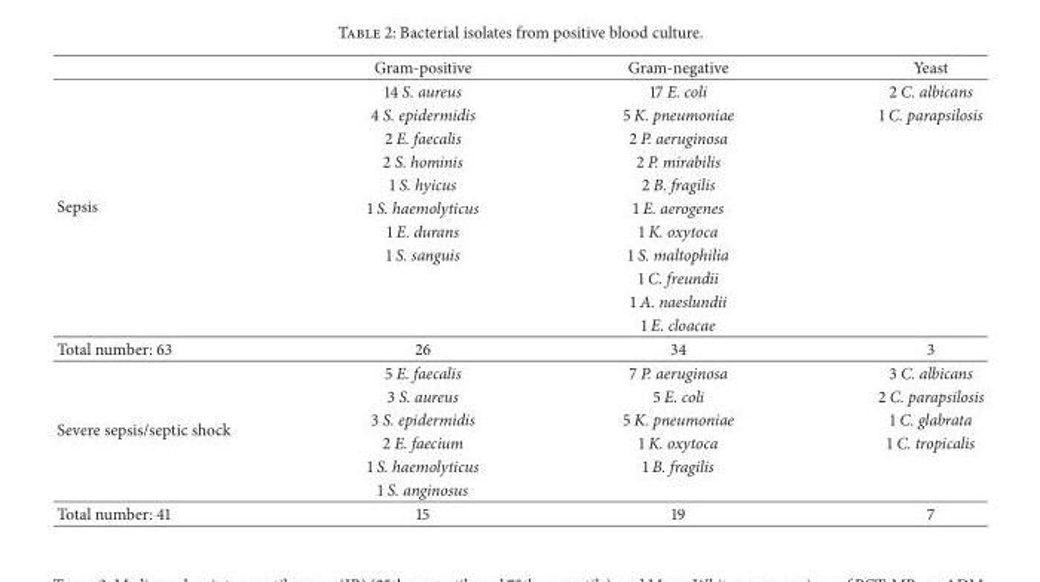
<table><thead><tr><td></td><td>Gram-positive</td><td>Gram-negative</td><td>Yeast</td></tr></thead><tbody><tr><td rowspan="11">Sepsis</td><td>14 S. aureus</td><td>17 E. coli</td><td>2 C. albicans</td></tr><tr><td>4 S. epidermidis</td><td>5 K. pneumoniae</td><td>1 C. parapsilosis</td></tr><tr><td>2 E. faecalis</td><td>2 P. aeruginosa</td><td></td></tr><tr><td>2 S. hominis</td><td>2 P. mirabilis</td><td></td></tr><tr><td>1 S. hyicus</td><td>2 B. fragilis</td><td></td></tr><tr><td>1 S. haemolyticus</td><td>1 E. aerogenes</td><td></td></tr><tr><td>1 E. durans</td><td>1 K. oxytoca</td><td></td></tr><tr><td>1 S. sanguis</td><td>1 S. maltophilia</td><td></td></tr><tr><td></td><td>1 C. freundii</td><td></td></tr><tr><td></td><td>1 A. naeslundii</td><td></td></tr><tr><td></td><td>1 E. cloacae</td><td></td></tr><tr><td>Total number: 63</td><td>26</td><td>34</td><td>3</td></tr><tr><td rowspan="6">Severe sepsis/septic shock</td><td>5 E. faecalis</td><td>7 P. aeruginosa</td><td>3 C. albicans</td></tr><tr><td>3 S. aureus</td><td>5 E. coli</td><td>2 C. parapsilosis</td></tr><tr><td>3 S. epidermidis</td><td>5 K. pneumoniae</td><td>1 C. glabrata</td></tr><tr><td>2 E. faecium</td><td>1 K. oxytoca</td><td>1 C. tropicalis</td></tr><tr><td>1 S. haemolyticus</td><td>1 B. fragilis</td><td></td></tr><tr><td>1 S. anginosus</td><td></td><td></td></tr><tr><td>Total number: 41</td><td>15</td><td>19</td><td>7</td></tr></tbody></table>